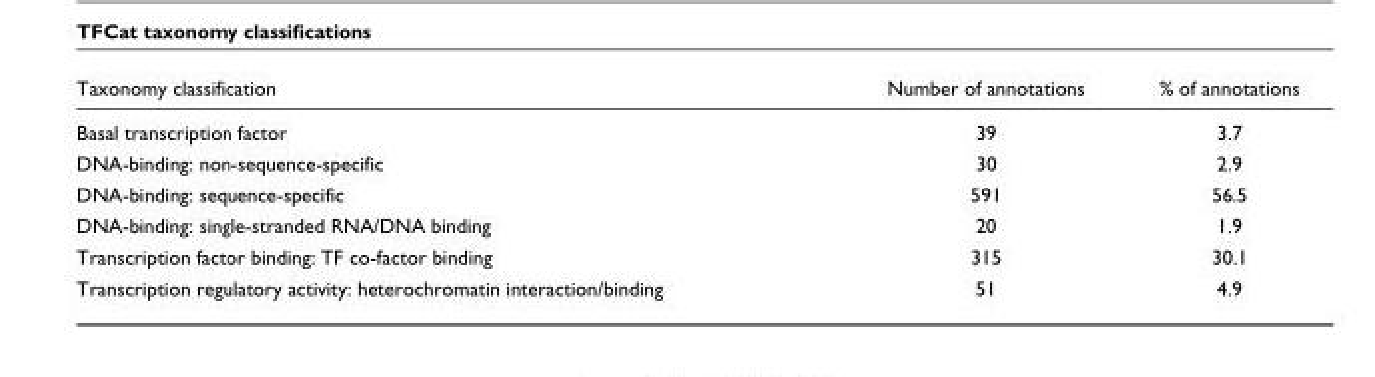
<table><thead><tr><td>Taxonomy classification</td><td>Number of annotations</td><td>% of annotations</td></tr></thead><tbody><tr><td>Basal transcription factor</td><td>39</td><td>3.7</td></tr><tr><td>DNA-binding: non-sequence-specific</td><td>30</td><td>2.9</td></tr><tr><td>DNA-binding: sequence-specific</td><td>591</td><td>56.5</td></tr><tr><td>DNA-binding: single-stranded RNA/DNA binding</td><td>20</td><td>1.9</td></tr><tr><td>Transcription factor binding: TF co-factor binding</td><td>315</td><td>30.1</td></tr><tr><td>Transcription regulatory activity: heterochromatin interaction/binding</td><td>51</td><td>4.9</td></tr></tbody></table>